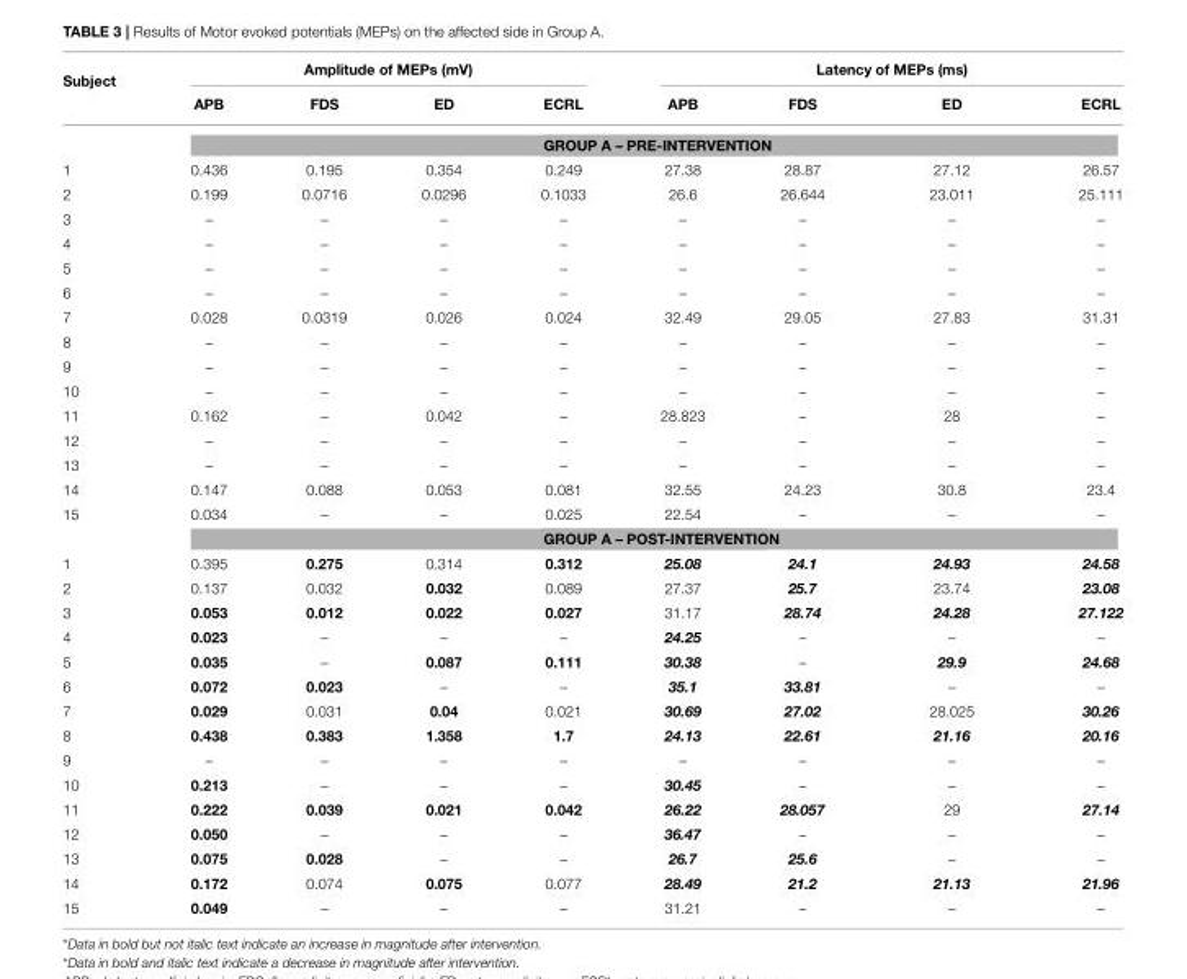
<table><thead><tr><td rowspan="2">Subject</td><td colspan="4">Amplitude of MEPs (mV)</td><td colspan="4">Latency of MEPs (ms)</td></tr><tr><td>APB</td><td>FDS</td><td>ED</td><td>ECRL</td><td>APB</td><td>FDS</td><td>ED</td><td>ECRL</td></tr></thead><tbody><tr><td></td><td colspan="8">GROUP A – PRE-INTERVENTION</td></tr><tr><td>1</td><td>0.436</td><td>0.195</td><td>0.354</td><td>0.249</td><td>27.38</td><td>28.87</td><td>27.12</td><td>26.57</td></tr><tr><td>2</td><td>0.199</td><td>0.0716</td><td>0.0296</td><td>0.1033</td><td>26.6</td><td>26.644</td><td>23.011</td><td>25.111</td></tr><tr><td>3</td><td>–</td><td>–</td><td>–</td><td>–</td><td>–</td><td>–</td><td>–</td><td>–</td></tr><tr><td>4</td><td>–</td><td>–</td><td>–</td><td>–</td><td>–</td><td>–</td><td>–</td><td>–</td></tr><tr><td>5</td><td>–</td><td>–</td><td>–</td><td>–</td><td>–</td><td>–</td><td>–</td><td>–</td></tr><tr><td>6</td><td>–</td><td>–</td><td>–</td><td>–</td><td>–</td><td>–</td><td>–</td><td>–</td></tr><tr><td>7</td><td>0.028</td><td>0.0319</td><td>0.026</td><td>0.024</td><td>32.49</td><td>29.05</td><td>27.83</td><td>31.31</td></tr><tr><td>8</td><td>–</td><td>–</td><td>–</td><td>–</td><td>–</td><td>–</td><td>–</td><td>–</td></tr><tr><td>9</td><td>–</td><td>–</td><td>–</td><td>–</td><td>–</td><td>–</td><td>–</td><td>–</td></tr><tr><td>10</td><td>–</td><td>–</td><td>–</td><td>–</td><td>–</td><td>–</td><td>–</td><td>–</td></tr><tr><td>11</td><td>0.162</td><td>–</td><td>0.042</td><td>–</td><td>28.823</td><td>–</td><td>28</td><td>–</td></tr><tr><td>12</td><td>–</td><td>–</td><td>–</td><td>–</td><td>–</td><td>–</td><td>–</td><td>–</td></tr><tr><td>13</td><td>–</td><td>–</td><td>–</td><td>–</td><td>–</td><td>–</td><td>–</td><td>–</td></tr><tr><td>14</td><td>0.147</td><td>0.088</td><td>0.053</td><td>0.081</td><td>32.55</td><td>24.23</td><td>30.8</td><td>23.4</td></tr><tr><td rowspan="2">15</td><td>0.034</td><td>–</td><td>–</td><td>0.025</td><td>22.54</td><td>–</td><td>–</td><td>–</td></tr><tr><td colspan="8">GROUP A – POST-INTERVENTION</td></tr><tr><td>1</td><td>0.395</td><td>0.275</td><td>0.314</td><td>0.312</td><td>25.08</td><td>24.1</td><td>24.93</td><td>24.58</td></tr><tr><td>2</td><td>0.137</td><td>0.032</td><td>0.032</td><td>0.089</td><td>27.37</td><td>25.7</td><td>23.74</td><td>23.08</td></tr><tr><td>3</td><td>0.053</td><td>0.012</td><td>0.022</td><td>0.027</td><td>31.17</td><td>28.74</td><td>24.28</td><td>27.122</td></tr><tr><td>4</td><td>0.023</td><td>–</td><td>–</td><td>–</td><td>24.25</td><td>–</td><td>–</td><td>–</td></tr><tr><td>5</td><td>0.035</td><td>–</td><td>0.087</td><td>0.111</td><td>30.38</td><td>–</td><td>29.9</td><td>24.68</td></tr><tr><td>6</td><td>0.072</td><td>0.023</td><td>–</td><td>–</td><td>35.1</td><td>33.81</td><td>–</td><td>–</td></tr><tr><td>7</td><td>0.029</td><td>0.031</td><td>0.04</td><td>0.021</td><td>30.69</td><td>27.02</td><td>28.025</td><td>30.26</td></tr><tr><td>8</td><td>0.438</td><td>0.383</td><td>1.358</td><td>1.7</td><td>24.13</td><td>22.61</td><td>21.16</td><td>20.16</td></tr><tr><td>9</td><td>–</td><td>–</td><td>–</td><td>–</td><td>–</td><td>–</td><td>–</td><td>–</td></tr><tr><td>10</td><td>0.213</td><td>–</td><td>–</td><td>–</td><td>30.45</td><td>–</td><td>–</td><td>–</td></tr><tr><td>11</td><td>0.222</td><td>0.039</td><td>0.021</td><td>0.042</td><td>26.22</td><td>28.057</td><td>29</td><td>27.14</td></tr><tr><td>12</td><td>0.050</td><td>–</td><td>–</td><td>–</td><td>36.47</td><td>–</td><td>–</td><td>–</td></tr><tr><td>13</td><td>0.075</td><td>0.028</td><td>–</td><td>–</td><td>26.7</td><td>25.6</td><td>–</td><td>–</td></tr><tr><td>14</td><td>0.172</td><td>0.074</td><td>0.075</td><td>0.077</td><td>28.49</td><td>21.2</td><td>21.13</td><td>21.96</td></tr><tr><td>15</td><td>0.049</td><td>–</td><td>–</td><td>–</td><td>31.21</td><td>–</td><td>–</td><td>–</td></tr></tbody></table>